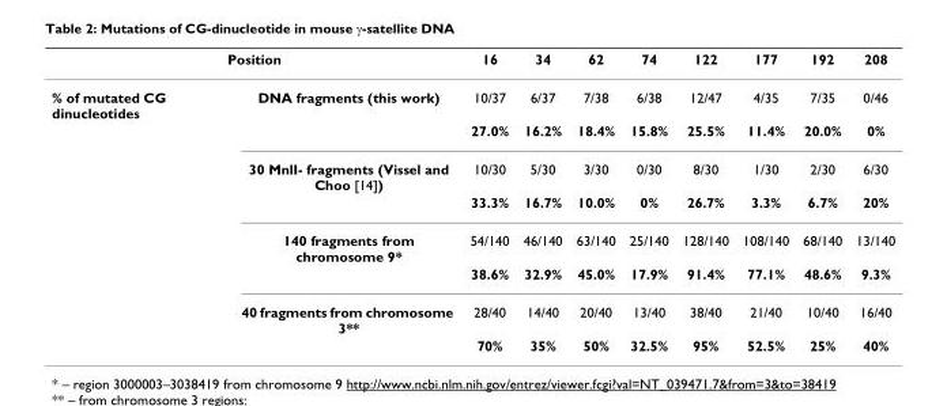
<table><thead><tr><td colspan="2">Position</td><td rowspan="2">16 10/37</td><td rowspan="2">34 6/37</td><td rowspan="2">62 7/38</td><td rowspan="2">74 6/38</td><td rowspan="2">122 12/47</td><td rowspan="2">177 4/35</td><td rowspan="2">192 7/35</td><td rowspan="2">208 0/46</td></tr><tr><td>% of mutated CG dinucleotides</td><td>DNA fragments (this work)</td></tr></thead><tbody><tr><td></td><td></td><td>27.0%</td><td>16.2%</td><td>18.4%</td><td>15.8%</td><td>25.5%</td><td>11.4%</td><td>20.0%</td><td>0%</td></tr><tr><td></td><td>30 MnlI- fragments (Vissel and Choo [14])</td><td>10/30</td><td>5/30</td><td>3/30</td><td>0/30</td><td>8/30</td><td>1/30</td><td>2/30</td><td>6/30</td></tr><tr><td></td><td></td><td>33.3%</td><td>16.7%</td><td>10.0%</td><td>0%</td><td>26.7%</td><td>3.3%</td><td>6.7%</td><td>20%</td></tr><tr><td></td><td>140 fragments from chromosome 9*</td><td>54/140</td><td>46/140</td><td>63/140</td><td>25/140</td><td>128/140</td><td>108/140</td><td>68/140</td><td>13/140</td></tr><tr><td></td><td></td><td>38.6%</td><td>32.9%</td><td>45.0%</td><td>17.9%</td><td>91.4%</td><td>77.1%</td><td>48.6%</td><td>9.3%</td></tr><tr><td></td><td>40 fragments from chromosome 3**</td><td>28/40</td><td>14/40</td><td>20/40</td><td>13/40</td><td>38/40</td><td>21/40</td><td>10/40</td><td>16/40</td></tr><tr><td></td><td></td><td>70%</td><td>35%</td><td>50%</td><td>32.5%</td><td>95%</td><td>52.5%</td><td>25%</td><td>40%</td></tr></tbody></table>